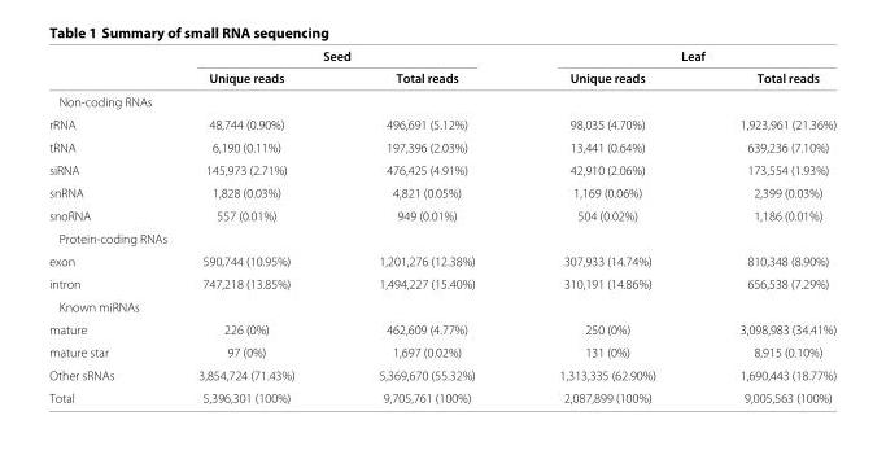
<table><thead><tr><td rowspan="2"></td><td colspan="2">Seed</td><td colspan="2">Leaf</td></tr><tr><td>Unique reads</td><td>Total reads</td><td>Unique reads</td><td>Total reads</td></tr></thead><tbody><tr><td colspan="5">Non-coding RNAs</td></tr><tr><td>rRNA</td><td>48,744 (0.90%)</td><td>496,691 (5.12%)</td><td>98,035 (4.70%)</td><td>1,923,961 (21.36%)</td></tr><tr><td>tRNA</td><td>6,190 (0.11%)</td><td>197,396 (2.03%)</td><td>13,441 (0.64%)</td><td>639,236 (7.10%)</td></tr><tr><td>siRNA</td><td>145,973 (2.71%)</td><td>476,425 (4.91%)</td><td>42,910 (2.06%)</td><td>173,554 (1.93%)</td></tr><tr><td>snRNA</td><td>1,828 (0.03%)</td><td>4,821 (0.05%)</td><td>1,169 (0.06%)</td><td>2,399 (0.03%)</td></tr><tr><td>snoRNA</td><td>557 (0.01%)</td><td>949 (0.01%)</td><td>504 (0.02%)</td><td>1,186 (0.01%)</td></tr><tr><td colspan="5">Protein-coding RNAs</td></tr><tr><td>exon</td><td>590,744 (10.95%)</td><td>1,201,276 (12.38%)</td><td>307,933 (14.74%)</td><td>810,348 (8.90%)</td></tr><tr><td>intron</td><td>747,218 (13.85%)</td><td>1,494,227 (15.40%)</td><td>310,191 (14.86%)</td><td>656,538 (7.29%)</td></tr><tr><td colspan="5">Known miRNAs</td></tr><tr><td>mature</td><td>226 (0%)</td><td>462,609 (4.77%)</td><td>250 (0%)</td><td>3,098,983 (34.41%)</td></tr><tr><td>mature star</td><td>97 (0%)</td><td>1,697 (0.02%)</td><td>131 (0%)</td><td>8,915 (0.10%)</td></tr><tr><td>Other sRNAs</td><td>3,854,724 (71.43%)</td><td>5,369,670 (55.32%)</td><td>1,313,335 (62.90%)</td><td>1,690,443 (18.77%)</td></tr><tr><td>Total</td><td>5,396,301 (100%)</td><td>9,705,761 (100%)</td><td>2,087,899 (100%)</td><td>9,005,563 (100%)</td></tr></tbody></table>